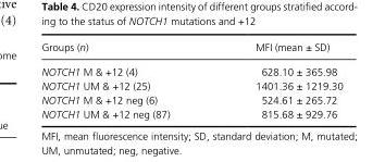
<table><thead><tr><td>Groups (n)</td><td>MFI (mean ± SD)</td></tr></thead><tbody><tr><td>NOTCH1 M &amp; +12 (4)</td><td>628.10 ± 365.98</td></tr><tr><td>NOTCH1 UM &amp; +12 (25)</td><td>1401.36 ± 1219.30</td></tr><tr><td>NOTCH1 M &amp; +12 neg (6)</td><td>524.61 ± 265.72</td></tr><tr><td>NOTCH1 UM &amp; +12 neg (87)</td><td>815.68 ± 929.76</td></tr></tbody></table>